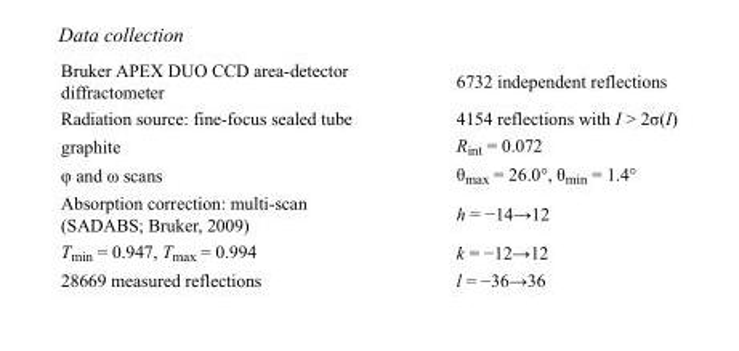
<table><tbody><tr><td>Bruker APEX DUO CCD area-detector diffractometer</td><td>6732 independent reflections</td></tr><tr><td>Radiation source: fine-focus sealed tube</td><td>4154 reflections with I &gt; 2σ(I)</td></tr><tr><td>graphite</td><td>R<sub>int</sub> = 0.072</td></tr><tr><td>φ and ω scans</td><td>θ<sub>max</sub> = 26.0°, θ<sub>min</sub> = 1.4°</td></tr><tr><td>Absorption correction: multi-scan (SADABS; Bruker, 2009)</td><td>h = −14→12</td></tr><tr><td>T<sub>min</sub> = 0.947, T<sub>max</sub> = 0.994</td><td>k = −12→12</td></tr><tr><td>28669 measured reflections</td><td>l = −36→36</td></tr></tbody></table>